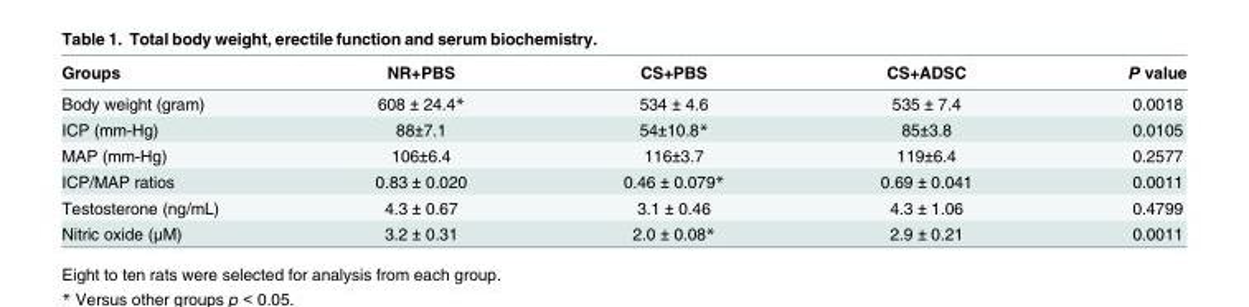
<table><thead><tr><td>Groups</td><td>NR+PBS</td><td>CS+PBS</td><td>CS+ADSC</td><td>P value</td></tr></thead><tbody><tr><td>Body weight (gram)</td><td>608 ± 24.4*</td><td>534 ± 4.6</td><td>535 ± 7.4</td><td>0.0018</td></tr><tr><td>ICP (mm-Hg)</td><td>88±7.1</td><td>54±10.8*</td><td>85±3.8</td><td>0.0105</td></tr><tr><td>MAP (mm-Hg)</td><td>106±6.4</td><td>116±3.7</td><td>119±6.4</td><td>0.2577</td></tr><tr><td>ICP/MAP ratios</td><td>0.83 ± 0.020</td><td>0.46 ± 0.079*</td><td>0.69 ± 0.041</td><td>0.0011</td></tr><tr><td>Testosterone (ng/mL)</td><td>4.3 ± 0.67</td><td>3.1 ± 0.46</td><td>4.3 ± 1.06</td><td>0.4799</td></tr><tr><td>Nitric oxide (μM)</td><td>3.2 ± 0.31</td><td>2.0 ± 0.08*</td><td>2.9 ± 0.21</td><td>0.0011</td></tr></tbody></table>